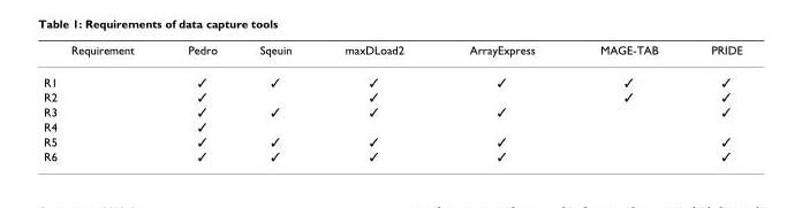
<table><thead><tr><td>Requirement</td><td>Pedro</td><td>Sqeuin</td><td>maxDLoad2</td><td>ArrayExpress</td><td>MAGE-TAB</td><td>PRIDE</td></tr></thead><tbody><tr><td>R1</td><td>✓</td><td>✓</td><td>✓</td><td>✓</td><td>✓</td><td>✓</td></tr><tr><td>R2</td><td>✓</td><td></td><td>✓</td><td></td><td>✓</td><td>✓</td></tr><tr><td>R3</td><td>✓</td><td>✓</td><td>✓</td><td>✓</td><td></td><td>✓</td></tr><tr><td>R4</td><td>✓</td><td></td><td></td><td></td><td></td><td></td></tr><tr><td>R5</td><td>✓</td><td>✓</td><td>✓</td><td>✓</td><td></td><td>✓</td></tr><tr><td>R6</td><td>✓</td><td>✓</td><td>✓</td><td>✓</td><td></td><td>✓</td></tr></tbody></table>